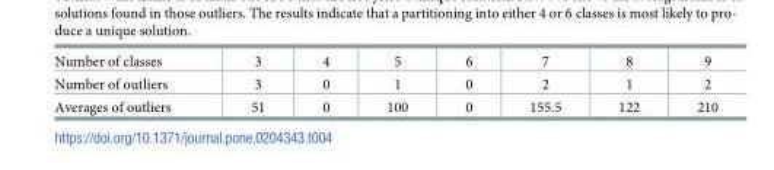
<table><tbody><tr><td>Number of classes</td><td>3</td><td>4</td><td>5</td><td>6</td><td>7</td><td>8</td><td>9</td></tr><tr><td>Number of outliers</td><td>3</td><td>0</td><td>1</td><td>0</td><td>2</td><td>1</td><td>2</td></tr><tr><td>Averages of outliers</td><td>51</td><td>0</td><td>100</td><td>0</td><td>155.5</td><td>122</td><td>210</td></tr></tbody></table>